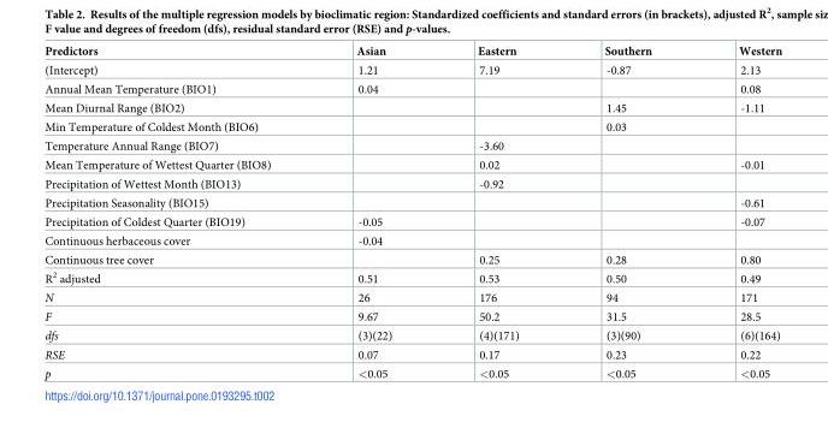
<table><thead><tr><td>Predictors</td><td>Asian</td><td>Eastern</td><td>Southern</td><td>Western</td></tr></thead><tbody><tr><td>(Intercept)</td><td>1.21</td><td>7.19</td><td>-0.87</td><td>2.13</td></tr><tr><td>Annual Mean Temperature (BIO1)</td><td>0.04</td><td></td><td></td><td>0.08</td></tr><tr><td>Mean Diurnal Range (BIO2)</td><td></td><td></td><td>1.45</td><td>-1.11</td></tr><tr><td>Min Temperature of Coldest Month (BIO6)</td><td></td><td></td><td>0.03</td><td></td></tr><tr><td>Temperature Annual Range (BIO7)</td><td></td><td>-3.60</td><td></td><td></td></tr><tr><td>Mean Temperature of Wettest Quarter (BIO8)</td><td></td><td>0.02</td><td></td><td>-0.01</td></tr><tr><td>Precipitation of Wettest Month (BIO13)</td><td></td><td>-0.92</td><td></td><td></td></tr><tr><td>Precipitation Seasonality (BIO15)</td><td></td><td></td><td></td><td>-0.61</td></tr><tr><td>Precipitation of Coldest Quarter (BIO19)</td><td>-0.05</td><td></td><td></td><td>-0.07</td></tr><tr><td>Continuous herbaceous cover</td><td>-0.04</td><td></td><td></td><td></td></tr><tr><td>Continuous tree cover</td><td></td><td>0.25</td><td>0.28</td><td>0.80</td></tr><tr><td>R<sup>2</sup> adjusted</td><td>0.51</td><td>0.53</td><td>0.50</td><td>0.49</td></tr><tr><td>N</td><td>26</td><td>176</td><td>94</td><td>171</td></tr><tr><td>F</td><td>9.67</td><td>50.2</td><td>31.5</td><td>28.5</td></tr><tr><td>dfs</td><td>(3)(22)</td><td>(4)(171)</td><td>(3)(90)</td><td>(6)(164)</td></tr><tr><td>RSE</td><td>0.07</td><td>0.17</td><td>0.23</td><td>0.22</td></tr><tr><td>p</td><td>&lt;0.05</td><td>&lt;0.05</td><td>&lt;0.05</td><td>&lt;0.05</td></tr></tbody></table>